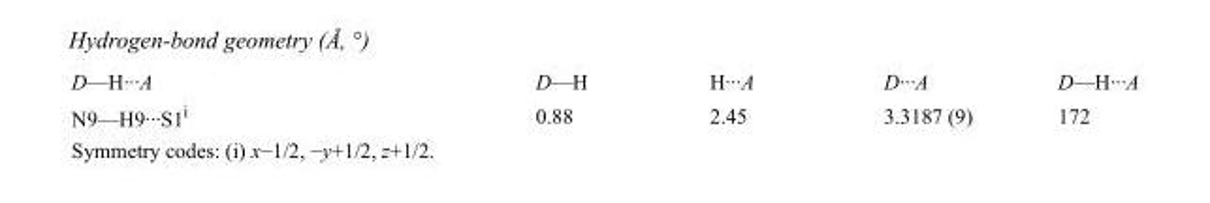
<table><tbody><tr><td>D—H···A</td><td>D—H</td><td>H···A</td><td>D···A</td><td>D—H···A</td></tr><tr><td>N9—H9···S1<sup>i</sup></td><td>0.88</td><td>2.45</td><td>3.3187 (9)</td><td>172</td></tr></tbody></table>